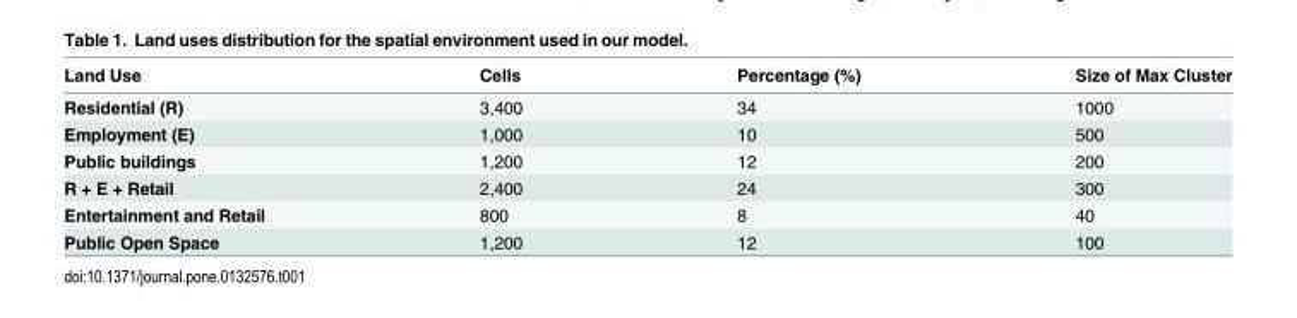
<table><thead><tr><td>Land Use</td><td>Cells</td><td>Percentage (%)</td><td>Size of Max Cluster</td></tr></thead><tbody><tr><td>Residential (R)</td><td>3,400</td><td>34</td><td>1000</td></tr><tr><td>Employment (E)</td><td>1,000</td><td>10</td><td>500</td></tr><tr><td>Public buildings</td><td>1,200</td><td>12</td><td>200</td></tr><tr><td>R + E + Retail</td><td>2,400</td><td>24</td><td>300</td></tr><tr><td>Entertainment and Retail</td><td>800</td><td>8</td><td>40</td></tr><tr><td>Public Open Space</td><td>1,200</td><td>12</td><td>100</td></tr></tbody></table>